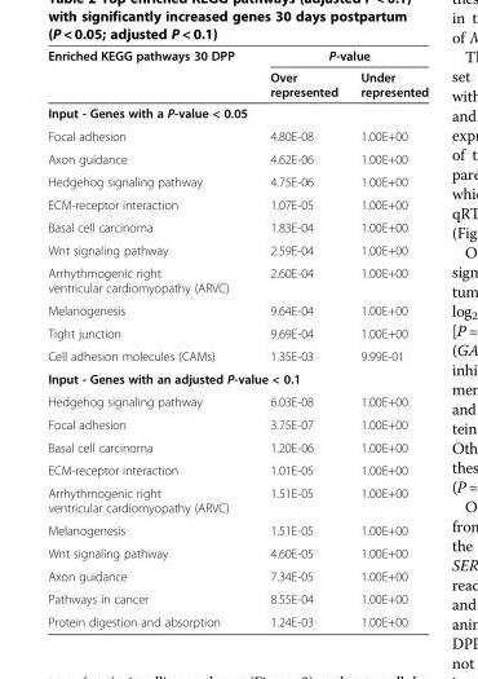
<table><thead><tr><td rowspan="2">Enriched KEGG pathways 30 DPP</td><td colspan="2">P-value</td></tr><tr><td>Over represented</td><td>Under represented</td></tr></thead><tbody><tr><td colspan="3">Input - Genes with a P-value &lt; 0.05</td></tr><tr><td>Focal adhesion</td><td>4.80E-08</td><td>1.00E+00</td></tr><tr><td>Axon guidance</td><td>4.62E-06</td><td>1.00E+00</td></tr><tr><td>Hedgehog signaling pathway</td><td>4.75E-06</td><td>1.00E+00</td></tr><tr><td>ECM-receptor interaction</td><td>1.07E-05</td><td>1.00E+00</td></tr><tr><td>Basal cell carcinoma</td><td>1.83E-04</td><td>1.00E+00</td></tr><tr><td>Wnt signaling pathway</td><td>2.59E-04</td><td>1.00E+00</td></tr><tr><td>Arrhythmogenic right ventricular cardiomyopathy (ARVC)</td><td>2.60E-04</td><td>1.00E+00</td></tr><tr><td>Melanogenesis</td><td>9.64E-04</td><td>1.00E+00</td></tr><tr><td>Tight junction</td><td>9.69E-04</td><td>1.00E+00</td></tr><tr><td>Cell adhesion molecules (CAMs)</td><td>1.35E-03</td><td>9.99E-01</td></tr><tr><td colspan="3">Input - Genes with an adjusted P-value &lt; 0.1</td></tr><tr><td>Hedgehog signaling pathway</td><td>6.03E-08</td><td>1.00E+00</td></tr><tr><td>Focal adhesion</td><td>3.75E-07</td><td>1.00E+00</td></tr><tr><td>Basal cell carcinoma</td><td>1.20E-06</td><td>1.00E+00</td></tr><tr><td>ECM-receptor interaction</td><td>1.01E-05</td><td>1.00E+00</td></tr><tr><td>Arrhythmogenic right ventricular cardiomyopathy (ARVC)</td><td>1.51E-05</td><td>1.00E+00</td></tr><tr><td>Melanogenesis</td><td>1.51E-05</td><td>1.00E+00</td></tr><tr><td>Wnt signaling pathway</td><td>4.60E-05</td><td>1.00E+00</td></tr><tr><td>Axon guidance</td><td>7.34E-05</td><td>1.00E+00</td></tr><tr><td>Pathways in cancer</td><td>8.55E-04</td><td>1.00E+00</td></tr><tr><td>Protein digestion and absorption</td><td>1.24E-03</td><td>1.00E+00</td></tr></tbody></table>